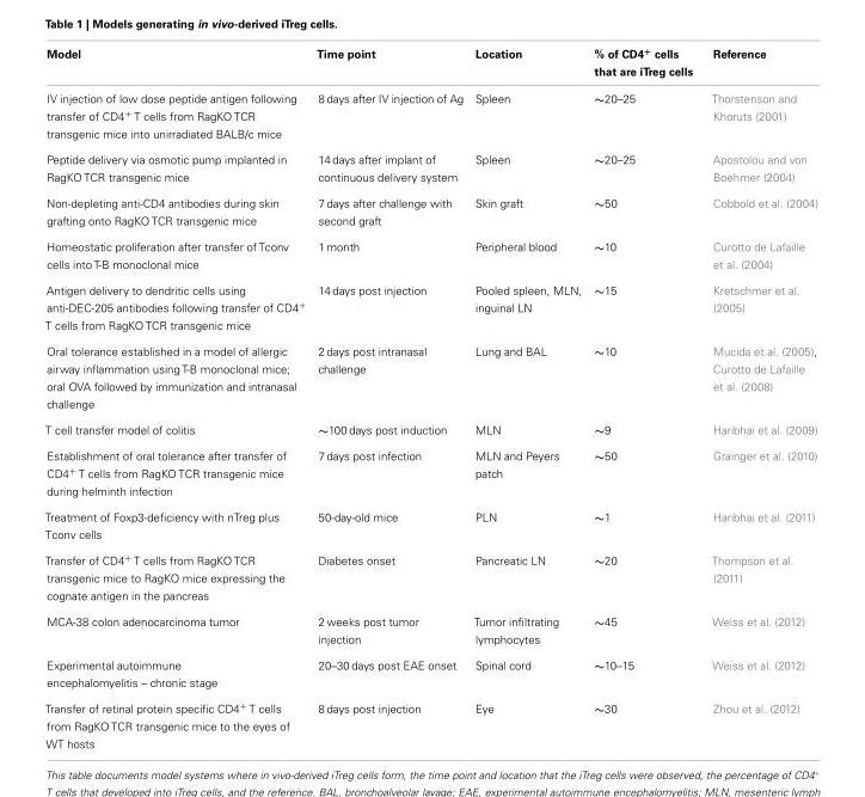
<table><thead><tr><td>Model</td><td>Time point</td><td>Location</td><td>% of CD4<sup>+</sup> cells that are iTreg cells</td><td>Reference</td></tr></thead><tbody><tr><td>IV injection of low dose peptide antigen following transfer of CD4<sup>+</sup> T cells from RagKO TCR transgenic mice into unirradiated BALB/c mice</td><td>8 days after IV injection of Ag</td><td>Spleen</td><td>∼20–25</td><td>Thorstenson and Khoruts (2001)</td></tr><tr><td>Peptide delivery via osmotic pump implanted in RagKO TCR transgenic mice</td><td>14 days after implant of continuous delivery system</td><td>Spleen</td><td>∼20–25</td><td>Apostolou and von Boehmer (2004)</td></tr><tr><td>Non-depleting anti-CD4 antibodies during skin grafting onto RagKO TCR transgenic mice</td><td>7 days after challenge with second graft</td><td>Skin graft</td><td>∼50</td><td>Cobbold et al. (2004)</td></tr><tr><td>Homeostatic proliferation after transfer of Tconv cells into T-B monoclonal mice</td><td>1 month</td><td>Peripheral blood</td><td>∼10</td><td>Curotto de Lafaille et al. (2004)</td></tr><tr><td>Antigen delivery to dendritic cells using anti-DEC-205 antibodies following transfer of CD4<sup>+</sup> T cells from RagKO TCR transgenic mice</td><td>14 days post injection</td><td>Pooled spleen, MLN, inguinal LN</td><td>∼15</td><td>Kretschmer et al. (2005)</td></tr><tr><td>Oral tolerance established in a model of allergic airway inflammation using T-B monoclonal mice; oral OVA followed by immunization and intranasal challenge</td><td>2 days post intranasal challenge</td><td>Lung and BAL</td><td>∼10</td><td>Mucida et al. (2005), Curotto de Lafaille et al. (2008)</td></tr><tr><td>T cell transfer model of colitis</td><td>∼100 days post induction</td><td>MLN</td><td>∼9</td><td>Haribhai et al. (2009)</td></tr><tr><td>Establishment of oral tolerance after transfer of CD4<sup>+</sup> T cells from RagKO TCR transgenic mice during helminth infection</td><td>7 days post infection</td><td>MLN and Peyers patch</td><td>∼50</td><td>Grainger et al. (2010)</td></tr><tr><td>Treatment of Foxp3-deficiency with nTreg plus Tconv cells</td><td>50-day-old mice</td><td>PLN</td><td>∼1</td><td>Haribhai et al. (2011)</td></tr><tr><td>Transfer of CD4<sup>+</sup> T cells from RagKO TCR transgenic mice to RagKO mice expressing the cognate antigen in the pancreas</td><td>Diabetes onset</td><td>Pancreatic LN</td><td>∼20</td><td>Thompson et al. (2011)</td></tr><tr><td>MCA-38 colon adenocarcinoma tumor</td><td>2 weeks post tumor injection</td><td>Tumor infiltrating lymphocytes</td><td>∼45</td><td>Weiss et al. (2012)</td></tr><tr><td>Experimental autoimmune encephalomyelitis – chronic stage</td><td>20–30 days post EAE onset</td><td>Spinal cord</td><td>∼10–15</td><td>Weiss et al. (2012)</td></tr><tr><td>Transfer of retinal protein specific CD4<sup>+</sup> T cells from RagKO TCR transgenic mice to the eyes of WT hosts</td><td>8 days post injection</td><td>Eye</td><td>∼30</td><td>Zhou et al. (2012)</td></tr></tbody></table>